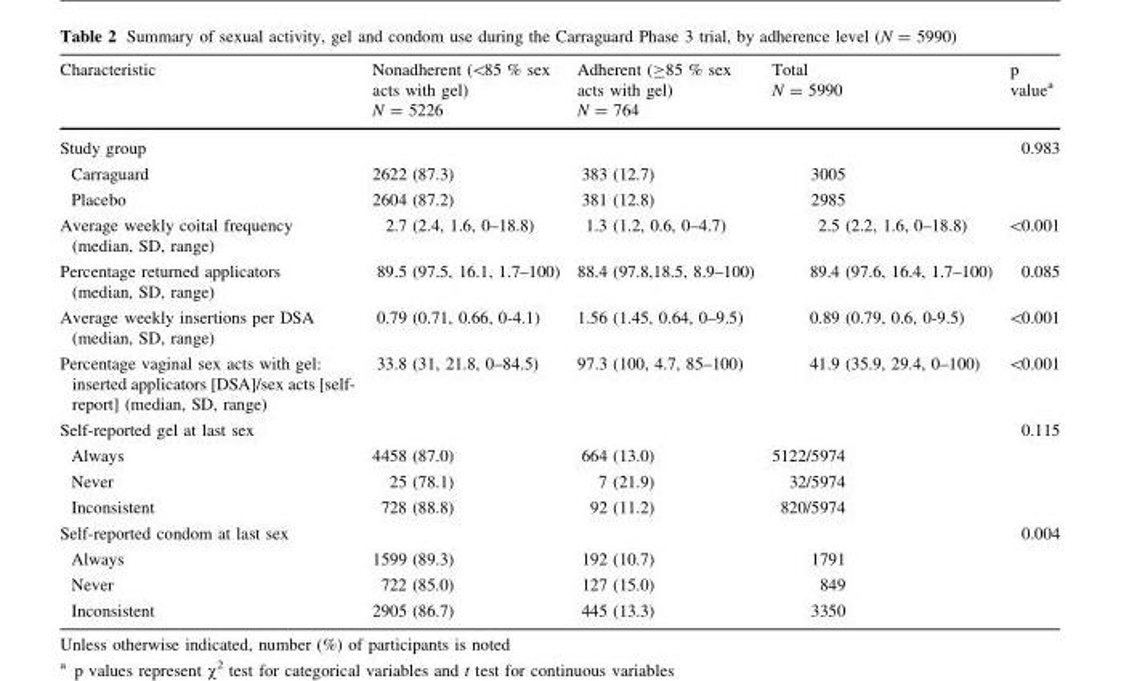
<table><thead><tr><td>Characteristic</td><td>Nonadherent (&lt;85 % sex acts with gel) N = 5226</td><td>Adherent (≥85 % sex acts with gel) N = 764</td><td>Total N = 5990</td><td>p value<sup>a</sup></td></tr></thead><tbody><tr><td>Study group</td><td></td><td></td><td></td><td>0.983</td></tr><tr><td>Carraguard</td><td>2622 (87.3)</td><td>383 (12.7)</td><td>3005</td><td></td></tr><tr><td>Placebo</td><td>2604 (87.2)</td><td>381 (12.8)</td><td>2985</td><td></td></tr><tr><td>Average weekly coital frequency (median, SD, range)</td><td>2.7 (2.4, 1.6, 0–18.8)</td><td>1.3 (1.2, 0.6, 0–4.7)</td><td>2.5 (2.2, 1.6, 0–18.8)</td><td>&lt;0.001</td></tr><tr><td>Percentage returned applicators (median, SD, range)</td><td>89.5 (97.5, 16.1, 1.7–100)</td><td>88.4 (97.8,18.5, 8.9–100)</td><td>89.4 (97.6, 16.4, 1.7–100)</td><td>0.085</td></tr><tr><td>Average weekly insertions per DSA (median, SD, range)</td><td>0.79 (0.71, 0.66, 0-4.1)</td><td>1.56 (1.45, 0.64, 0–9.5)</td><td>0.89 (0.79, 0.6, 0-9.5)</td><td>&lt;0.001</td></tr><tr><td>Percentage vaginal sex acts with gel: inserted applicators [DSA]/sex acts [self- report] (median, SD, range)</td><td>33.8 (31, 21.8, 0–84.5)</td><td>97.3 (100, 4.7, 85–100)</td><td>41.9 (35.9, 29.4, 0–100)</td><td>&lt;0.001</td></tr><tr><td>Self-reported gel at last sex</td><td></td><td></td><td></td><td>0.115</td></tr><tr><td>Always</td><td>4458 (87.0)</td><td>664 (13.0)</td><td>5122/5974</td><td></td></tr><tr><td>Never</td><td>25 (78.1)</td><td>7 (21.9)</td><td>32/5974</td><td></td></tr><tr><td>Inconsistent</td><td>728 (88.8)</td><td>92 (11.2)</td><td>820/5974</td><td></td></tr><tr><td>Self-reported condom at last sex</td><td></td><td></td><td></td><td>0.004</td></tr><tr><td>Always</td><td>1599 (89.3)</td><td>192 (10.7)</td><td>1791</td><td></td></tr><tr><td>Never</td><td>722 (85.0)</td><td>127 (15.0)</td><td>849</td><td></td></tr><tr><td>Inconsistent</td><td>2905 (86.7)</td><td>445 (13.3)</td><td>3350</td><td></td></tr></tbody></table>